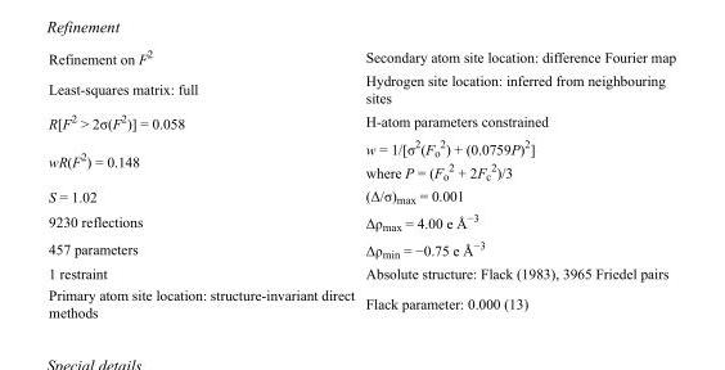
<table><tbody><tr><td>Refinement on F<sup>2</sup></td><td>Secondary atom site location: difference Fourier map</td></tr><tr><td>Least-squares matrix: full</td><td>Hydrogen site location: inferred from neighbouring sites</td></tr><tr><td>R[F<sup>2</sup> &gt; 2σ(F<sup>2</sup>)] = 0.058</td><td>H-atom parameters constrained</td></tr><tr><td>wR(F<sup>2</sup>) = 0.148</td><td>w = 1/[σ<sup>2</sup>(F<sub>o</sub> <sup>2</sup>) + (0.0759P)<sup>2</sup>] where P = (F<sub>o</sub> <sup>2</sup> + 2F<sub>c</sub> <sup>2</sup>)/3</td></tr><tr><td>S = 1.02</td><td>(Δ/σ)<sub>max</sub> = 0.001</td></tr><tr><td>9230 reflections</td><td>Δρ<sub>max</sub> = 4.00 e Å<sup>−3</sup></td></tr><tr><td>457 parameters</td><td>Δρ<sub>min</sub> = −0.75 e Å<sup>−3</sup></td></tr><tr><td>1 restraint</td><td>Absolute structure: Flack (1983), 3965 Friedel pairs</td></tr><tr><td>Primary atom site location: structure-invariant direct methods</td><td>Flack parameter: 0.000 (13)</td></tr></tbody></table>